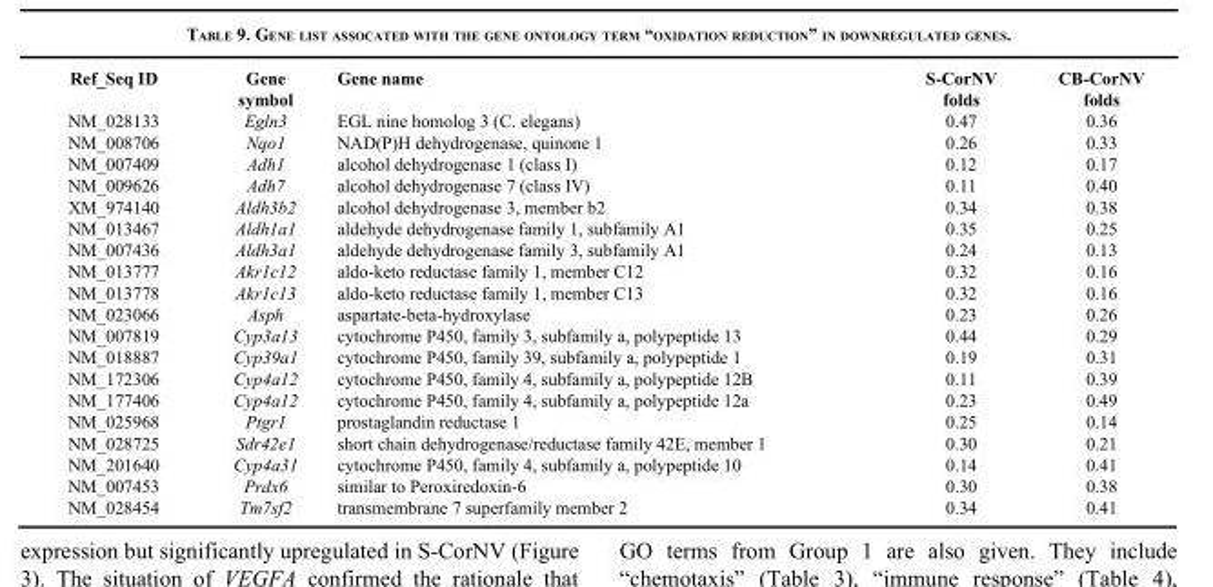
<table><thead><tr><td>Ref_Seq ID</td><td>Gene symbol</td><td>Gene name</td><td>S-CorNV folds</td><td>CB-CorNV folds</td></tr></thead><tbody><tr><td>NM_028133</td><td>Egln3</td><td>EGL nine homolog 3 (C. elegans)</td><td>0.47</td><td>0.36</td></tr><tr><td>NM_008706</td><td>Nqo1</td><td>NAD(P)H dehydrogenase, quinone 1</td><td>0.26</td><td>0.33</td></tr><tr><td>NM_007409</td><td>Adh1</td><td>alcohol dehydrogenase 1 (class I)</td><td>0.12</td><td>0.17</td></tr><tr><td>NM_009626</td><td>Adh7</td><td>alcohol dehydrogenase 7 (class IV)</td><td>0.11</td><td>0.40</td></tr><tr><td>XM_974140</td><td>Aldh3b2</td><td>alcohol dehydrogenase 3, member b2</td><td>0.34</td><td>0.38</td></tr><tr><td>NM_013467</td><td>Aldh1a1</td><td>aldehyde dehydrogenase family 1, subfamily A1</td><td>0.35</td><td>0.25</td></tr><tr><td>NM_007436</td><td>Aldh3a1</td><td>aldehyde dehydrogenase family 3, subfamily A1</td><td>0.24</td><td>0.13</td></tr><tr><td>NM_013777</td><td>Akr1c12</td><td>aldo-keto reductase family 1, member C12</td><td>0.32</td><td>0.16</td></tr><tr><td>NM_013778</td><td>Akr1c13</td><td>aldo-keto reductase family 1, member C13</td><td>0.32</td><td>0.16</td></tr><tr><td>NM_023066</td><td>Asph</td><td>aspartate-beta-hydroxylase</td><td>0.23</td><td>0.26</td></tr><tr><td>NM_007819</td><td>Cyp3a13</td><td>cytochrome P450, family 3, subfamily a, polypeptide 13</td><td>0.44</td><td>0.29</td></tr><tr><td>NM_018887</td><td>Cyp39a1</td><td>cytochrome P450, family 39, subfamily a, polypeptide 1</td><td>0.19</td><td>0.31</td></tr><tr><td>NM_172306</td><td>Cyp4a12</td><td>cytochrome P450, family 4, subfamily a, polypeptide 12B</td><td>0.11</td><td>0.39</td></tr><tr><td>NM_177406</td><td>Cyp4a12</td><td>cytochrome P450, family 4, subfamily a, polypeptide 12a</td><td>0.23</td><td>0.49</td></tr><tr><td>NM_025968</td><td>Ptgr1</td><td>prostaglandin reductase 1</td><td>0.25</td><td>0.14</td></tr><tr><td>NM_028725</td><td>Sdr42e1</td><td>short chain dehydrogenase/reductase family 42E, member 1</td><td>0.30</td><td>0.21</td></tr><tr><td>NM_201640</td><td>Cyp4a31</td><td>cytochrome P450, family 4, subfamily a, polypeptide 10</td><td>0.14</td><td>0.41</td></tr><tr><td>NM_007453</td><td>Prdx6</td><td>similar to Peroxiredoxin-6</td><td>0.30</td><td>0.38</td></tr><tr><td>NM_028454</td><td>Tm7sf2</td><td>transmembrane 7 superfamily member 2</td><td>0.34</td><td>0.41</td></tr></tbody></table>